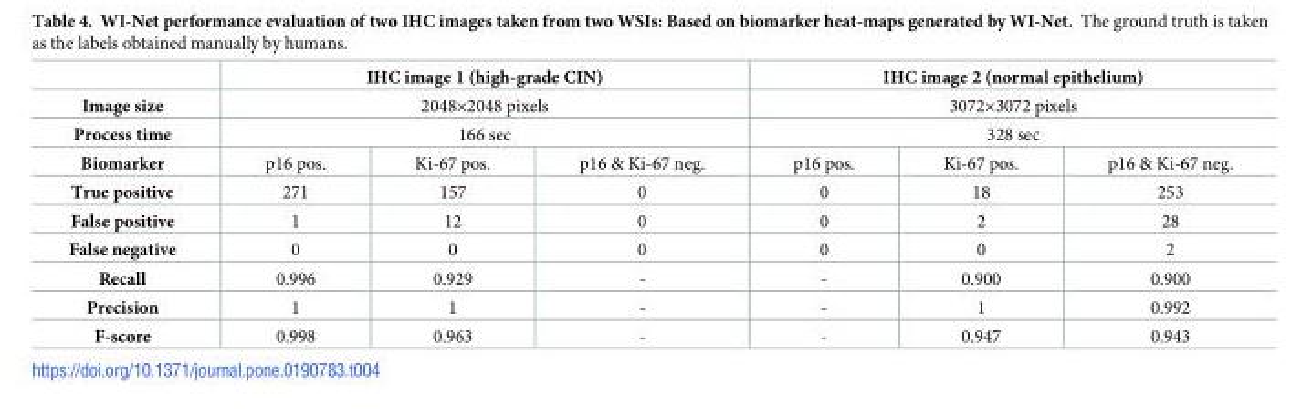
<table><thead><tr><td rowspan="4">Image size Process time Biomarker</td><td rowspan="3" colspan="3">IHC image 1 (high-grade CIN) 2048×2048 pixels 166 sec</td><td rowspan="3" colspan="3">IHC image 2 (normal epithelium) 3072×3072 pixels 328 sec</td></tr><tr></tr><tr></tr><tr><td>p16 pos.</td><td>Ki-67 pos.</td><td>p16 &amp; Ki-67 neg.</td><td>p16 pos.</td><td>Ki-67 pos.</td><td>p16 &amp; Ki-67 neg.</td></tr></thead><tbody><tr><td>True positive</td><td>271</td><td>157</td><td>0</td><td>0</td><td>18</td><td>253</td></tr><tr><td>False positive</td><td>1</td><td>12</td><td>0</td><td>0</td><td>2</td><td>28</td></tr><tr><td>False negative</td><td>0</td><td>0</td><td>0</td><td>0</td><td>0</td><td>2</td></tr><tr><td>Recall</td><td>0.996</td><td>0.929</td><td>-</td><td>-</td><td>0.900</td><td>0.900</td></tr><tr><td>Precision</td><td>1</td><td>1</td><td>-</td><td>-</td><td>1</td><td>0.992</td></tr><tr><td>F-score</td><td>0.998</td><td>0.963</td><td>-</td><td>-</td><td>0.947</td><td>0.943</td></tr></tbody></table>